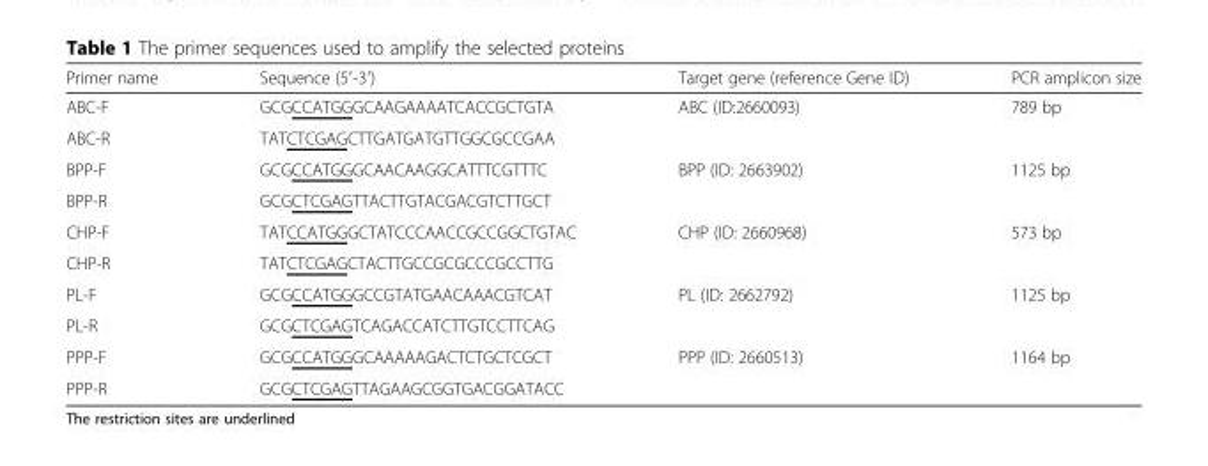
<table><thead><tr><td>Primer name</td><td>Sequence (5′-3′)</td><td>Target gene (reference Gene ID)</td><td>PCR amplicon size</td></tr></thead><tbody><tr><td>ABC-F</td><td>GCGCCATGGGCAAGAAAATCACCGCTGTA</td><td rowspan="2">ABC (ID:2660093)</td><td rowspan="2">789 bp</td></tr><tr><td>ABC-R</td><td>TATCTCGAGCTTGATGATGTTGGCGCCGAA</td></tr><tr><td>BPP-F</td><td>GCGCCATGGGCAACAAGGCATTTCGTTTC</td><td rowspan="2">BPP (ID: 2663902)</td><td rowspan="2">1125 bp</td></tr><tr><td>BPP-R</td><td>GCGCTCGAGTTACTTGTACGACGTCTTGCT</td></tr><tr><td>CHP-F</td><td>TATCCATGGGCTATCCCAACCGCCGGCTGTAC</td><td rowspan="2">CHP (ID: 2660968)</td><td rowspan="2">573 bp</td></tr><tr><td>CHP-R</td><td>TATCTCGAGCTACTTGCCGCGCCCGCCTTG</td></tr><tr><td>PL-F</td><td>GCGCCATGGGCCGTATGAACAAACGTCAT</td><td rowspan="2">PL (ID: 2662792)</td><td rowspan="2">1125 bp</td></tr><tr><td>PL-R</td><td>GCGCTCGAGTCAGACCATCTTGTCCTTCAG</td></tr><tr><td>PPP-F</td><td>GCGCCATGGGCAAAAAGACTCTGCTCGCT</td><td rowspan="2">PPP (ID: 2660513)</td><td rowspan="2">1164 bp</td></tr><tr><td>PPP-R</td><td>GCGCTCGAGTTAGAAGCGGTGACGGATACC</td></tr></tbody></table>